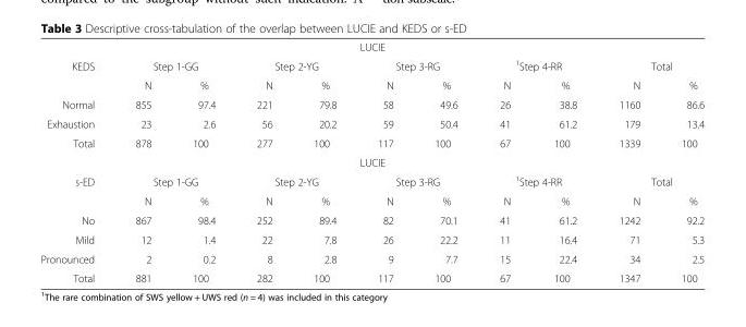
<table><tbody><tr><td colspan="11">LUCIE</td></tr><tr><td rowspan="2">KEDS</td><td colspan="2">Step 1-GG</td><td colspan="2">Step 2-YG</td><td colspan="2">Step 3-RG</td><td colspan="2"><sup>1</sup>Step 4-RR</td><td colspan="2">Total</td></tr><tr><td>N</td><td>%</td><td>N</td><td>%</td><td>N</td><td>%</td><td>N</td><td>%</td><td>N</td><td>%</td></tr><tr><td>Normal</td><td>855</td><td>97.4</td><td>221</td><td>79.8</td><td>58</td><td>49.6</td><td>26</td><td>38.8</td><td>1160</td><td>86.6</td></tr><tr><td>Exhaustion</td><td>23</td><td>2.6</td><td>56</td><td>20.2</td><td>59</td><td>50.4</td><td>41</td><td>61.2</td><td>179</td><td>13.4</td></tr><tr><td>Total</td><td>878</td><td>100</td><td>277</td><td>100</td><td>117</td><td>100</td><td>67</td><td>100</td><td>1339</td><td>100</td></tr><tr><td colspan="11">LUCIE</td></tr><tr><td rowspan="2">s-ED</td><td colspan="2">Step 1-GG</td><td colspan="2">Step 2-YG</td><td colspan="2">Step 3-RG</td><td colspan="2"><sup>1</sup>Step 4-RR</td><td colspan="2">Total</td></tr><tr><td>N</td><td>%</td><td>N</td><td>%</td><td>N</td><td>%</td><td>N</td><td>%</td><td>N</td><td>%</td></tr><tr><td>No</td><td>867</td><td>98.4</td><td>252</td><td>89.4</td><td>82</td><td>70.1</td><td>41</td><td>61.2</td><td>1242</td><td>92.2</td></tr><tr><td>Mild</td><td>12</td><td>1.4</td><td>22</td><td>7.8</td><td>26</td><td>22.2</td><td>11</td><td>16.4</td><td>71</td><td>5.3</td></tr><tr><td>Pronounced</td><td>2</td><td>0.2</td><td>8</td><td>2.8</td><td>9</td><td>7.7</td><td>15</td><td>22.4</td><td>34</td><td>2.5</td></tr><tr><td>Total</td><td>881</td><td>100</td><td>282</td><td>100</td><td>117</td><td>100</td><td>67</td><td>100</td><td>1347</td><td>100</td></tr></tbody></table>